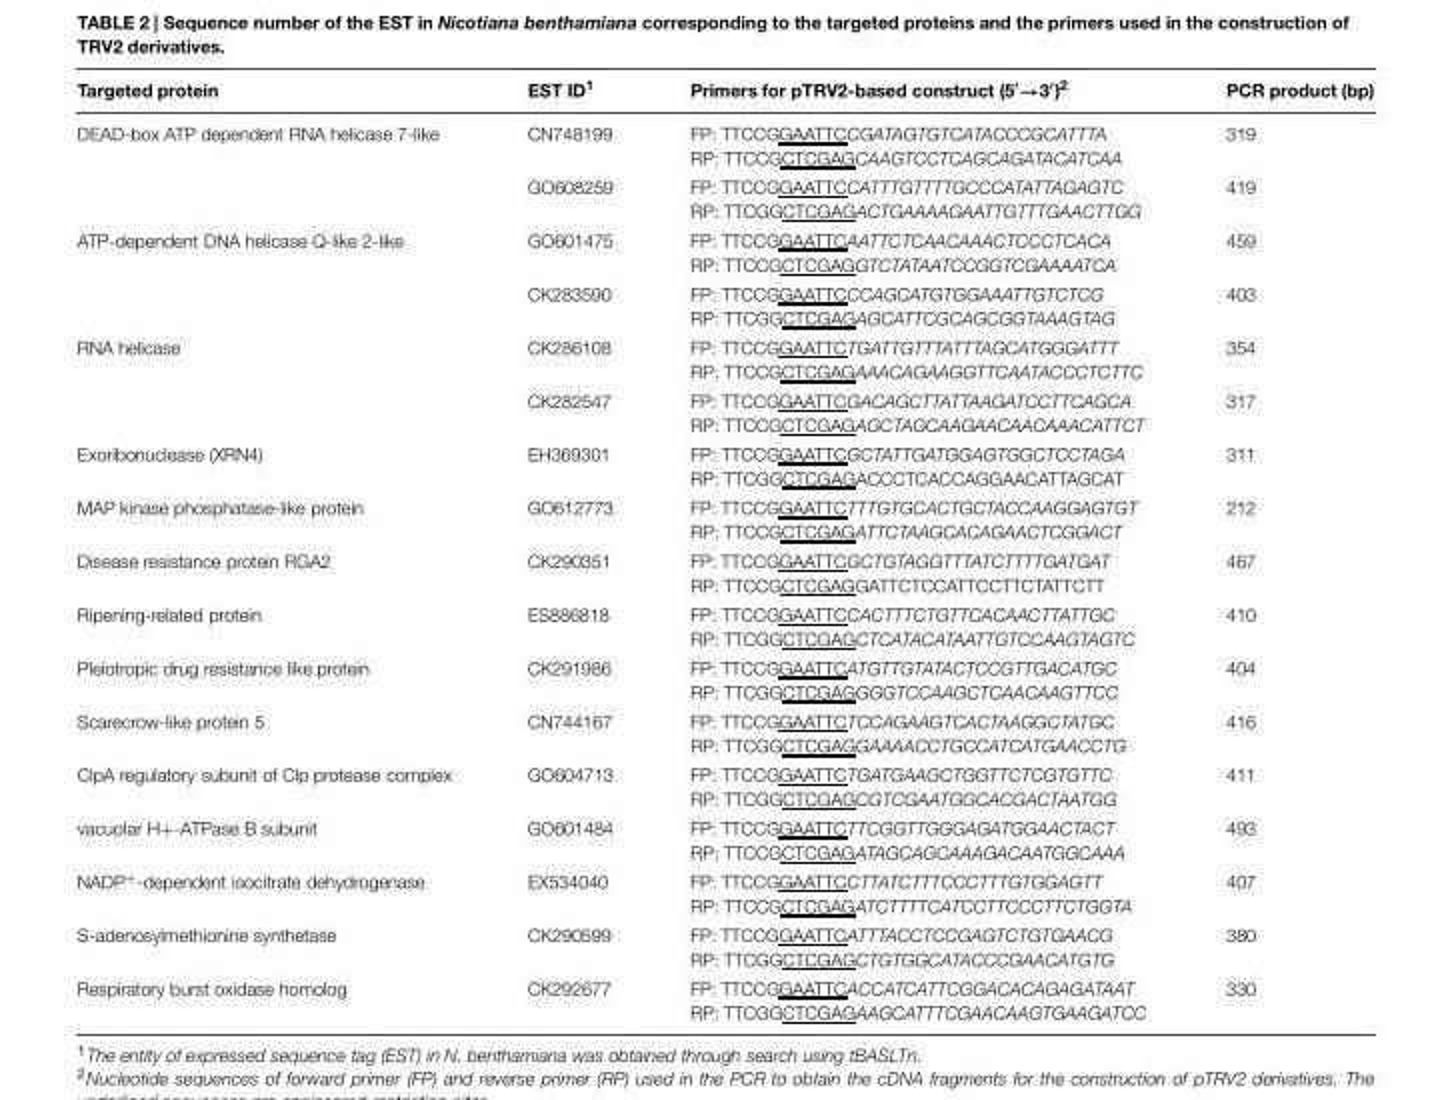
<table><thead><tr><td>Targeted protein</td><td>EST ID<sup>1</sup></td><td>Primers for pTRV2-based construct (5′→3′)<sup>2</sup></td><td>PCR product (bp)</td></tr></thead><tbody><tr><td rowspan="2">DEAD-box ATP dependent RNA helicase 7-like</td><td>CN748199</td><td>FP: TTCCGGAATTCCGATAGTGTCATACCCGCATTTA RP: TTCCGCTCGAGCAAGTCCTCAGCAGATACATCAA</td><td>319</td></tr><tr><td>GO608259</td><td>FP: TTCCGGAATTCCATTTGTTTTGCCCATATTAGAGTC RP: TTCGGCTCGAGACTGAAAAGAATTGTTTGAACTTGG</td><td>419</td></tr><tr><td rowspan="2">ATP-dependent DNA helicase Q-like 2-like</td><td>GO601475</td><td>FP: TTCCGGAATTCAATTCTCAACAAACTCCCTCACA RP: TTCCGCTCGAGGTCTATAATCCGGTCGAAAATCA</td><td>459</td></tr><tr><td>CK283590</td><td>FP: TTCCGGAATTCCCAGCATGTGGAAATTGTCTCG RP: TTCGGCTCGAGAGCATTCGCAGCGGTAAAGTAG</td><td>403</td></tr><tr><td rowspan="2">RNA helicase</td><td>CK286108</td><td>FP: TTCCGGAATTCTGATTGTTTATTTAGCATGGGATTT RP: TTCCGCTCGAGAAACAGAAGGTTCAATACCCTCTTC</td><td>354</td></tr><tr><td>CK282547</td><td>FP: TTCCGGAATTCGACAGCTTATTAAGATCCTTCAGCA RP: TTCCGCTCGAGAGCTAGCAAGAACAACAAACATTCT</td><td>317</td></tr><tr><td>Exoribonuclease (XRN4)</td><td>EH369301</td><td>FP: TTCCGGAATTCGCTATTGATGGAGTGGCTCCTAGA RP: TTCGGCTCGAGACCCTCACCAGGAACATTAGCAT</td><td>311</td></tr><tr><td>MAP kinase phosphatase-like protein</td><td>GO612773</td><td>FP: TTCCGGAATTCTTTGTGCACTGCTACCAAGGAGTGT RP: TTCCGCTCGAGATTCTAAGCACAGAACTCGGACT</td><td>212</td></tr><tr><td>Disease resistance protein RGA2</td><td>CK290351</td><td>FP: TTCCGGAATTCGCTGTAGGTTTATCTTTTGATGAT RP: TTCCGCTCGAGGATTCTCCATTCCTTCTATTCTT</td><td>467</td></tr><tr><td>Ripening-related protein</td><td>ES886818</td><td>FP: TTCCGGAATTCCACTTTCTGTTCACAACTTATTGC RP: TTCGGCTCGAGCTCATACATAATTGTCCAAGTAGTC</td><td>410</td></tr><tr><td>Pleiotropic drug resistance like protein</td><td>CK291986</td><td>FP: TTCCGGAATTCATGTTGTATACTCCGTTGACATGC RP: TTCGGCTCGAGGGGTCCAAGCTCAACAAGTTCC</td><td>404</td></tr><tr><td>Scarecrow-like protein 5</td><td>CN744167</td><td>FP: TTCCGGAATTCTCCAGAAGTCACTAAGGCTATGC RP: TTCGGCTCGAGGAAAACCTGCCATCATGAACCTG</td><td>416</td></tr><tr><td>ClpA regulatory subunit of Clp protease complex</td><td>GO604713</td><td>FP: TTCCGGAATTCTGATGAAGCTGGTTCTCGTGTTC RP: TTCGGCTCGAGCGTCGAATGGCACGACTAATGG</td><td>411</td></tr><tr><td>vacuolar H+-ATPase B subunit</td><td>GO601484</td><td>FP: TTCCGGAATTCTTCGGTTGGGAGATGGAACTACT RP: TTCCGCTCGAGATAGCAGCAAAGACAATGGCAAA</td><td>493</td></tr><tr><td>NADP<sup>+</sup>-dependent isocitrate dehydrogenase</td><td>EX534040</td><td>FP: TTCCGGAATTCCTTATCTTTCCCTTTGTGGAGTT RP: TTCCGCTCGAGATCTTTTCATCCTTCCCTTCTGGTA</td><td>407</td></tr><tr><td>S-adenosylmethionine synthetase</td><td>CK290599</td><td>FP: TTCCGGAATTCATTTACCTCCGAGTCTGTGAACG RP: TTCGGCTCGAGCTGTGGCATACCCGAACATGTG</td><td>380</td></tr><tr><td>Respiratory burst oxidase homolog</td><td>CK292677</td><td>FP: TTCCGGAATTCACCATCATTCGGACACAGAGATAAT RP: TTCGGCTCGAGAAGCATTTCGAACAAGTGAAGATCC</td><td>330</td></tr></tbody></table>